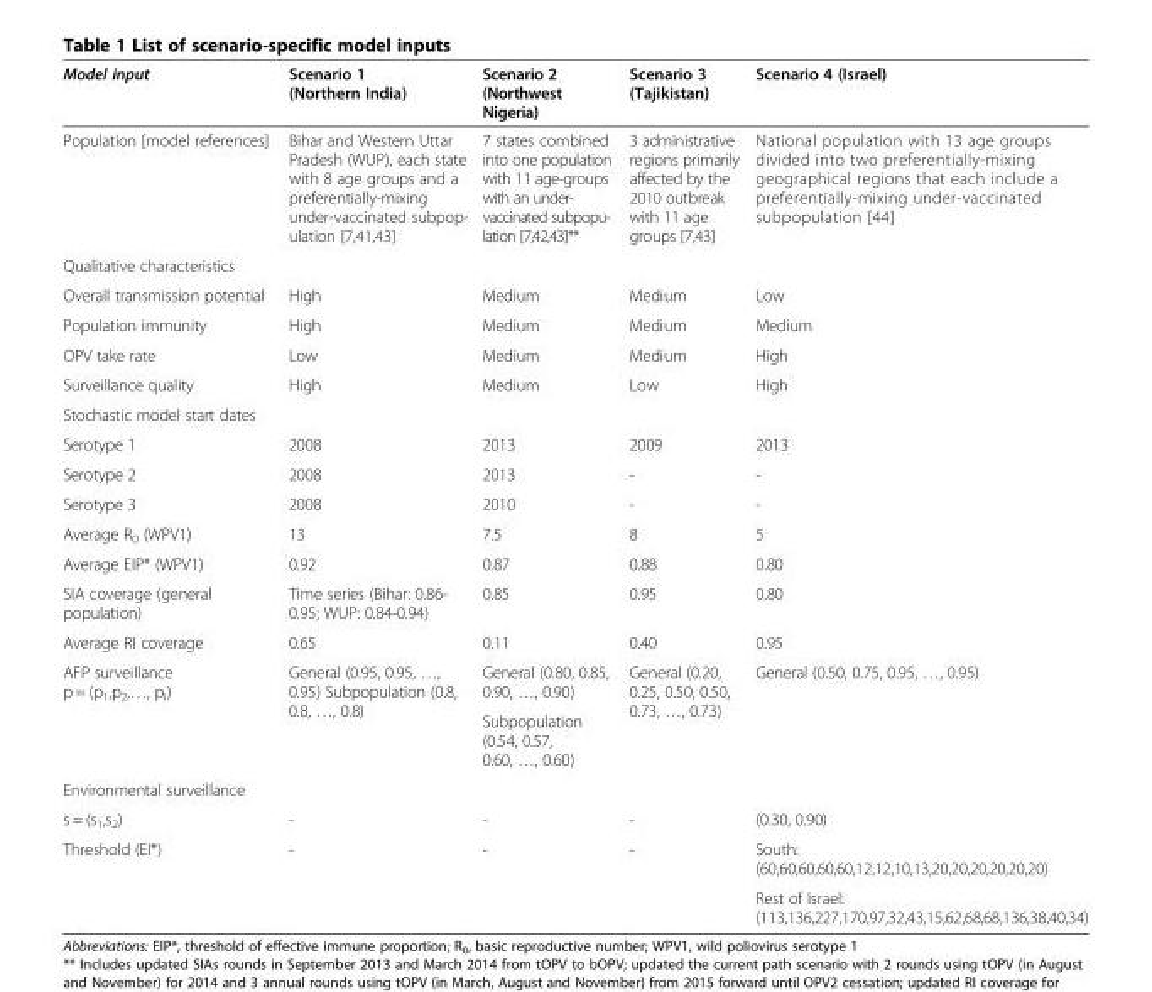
<table><thead><tr><td>Model input</td><td>Scenario 1 (Northern India)</td><td>Scenario 2 (Northwest Nigeria)</td><td>Scenario 3 (Tajikistan)</td><td>Scenario 4 (Israel)</td></tr></thead><tbody><tr><td>Population [model references]</td><td>Bihar and Western Uttar Pradesh (WUP), each state with 8 age groups and a preferentially-mixing under-vaccinated subpop- ulation [7,41,43]</td><td>7 states combined into one population with 11 age-groups with an under- vaccinated subpopu- lation [7,42,43]**</td><td>3 administrative regions primarily affected by the 2010 outbreak with 11 age groups [7,43]</td><td>National population with 13 age groups divided into two preferentially-mixing geographical regions that each include a preferentially-mixing under-vaccinated subpopulation [44]</td></tr><tr><td colspan="5">Qualitative characteristics</td></tr><tr><td>Overall transmission potential</td><td>High</td><td>Medium</td><td>Medium</td><td>Low</td></tr><tr><td>Population immunity</td><td>High</td><td>Medium</td><td>Medium</td><td>Medium</td></tr><tr><td>OPV take rate</td><td>Low</td><td>Medium</td><td>Medium</td><td>High</td></tr><tr><td>Surveillance quality</td><td>High</td><td>Medium</td><td>Low</td><td>High</td></tr><tr><td colspan="5">Stochastic model start dates</td></tr><tr><td>Serotype 1</td><td>2008</td><td>2013</td><td>2009</td><td>2013</td></tr><tr><td>Serotype 2</td><td>2008</td><td>2013</td><td>-</td><td>-</td></tr><tr><td>Serotype 3</td><td>2008</td><td>2010</td><td>-</td><td>-</td></tr><tr><td>Average R<sub>0</sub> (WPV1)</td><td>13</td><td>7.5</td><td>8</td><td>5</td></tr><tr><td>Average EIP* (WPV1)</td><td>0.92</td><td>0.87</td><td>0.88</td><td>0.80</td></tr><tr><td>SIA coverage (general population)</td><td>Time series (Bihar: 0.86- 0.95; WUP: 0.84-0.94)</td><td>0.85</td><td>0.95</td><td>0.80</td></tr><tr><td>Average RI coverage</td><td>0.65</td><td>0.11</td><td>0.40</td><td>0.95</td></tr><tr><td rowspan="2">AFP surveillance p = (p<sub>1</sub>,p<sub>2</sub>,…, p<sub>i</sub>)</td><td rowspan="2">General (0.95, 0.95, …, 0.95) Subpopulation (0.8, 0.8, …, 0.8)</td><td>General (0.80, 0.85, 0.90, …, 0.90)</td><td rowspan="2">General (0.20, 0.25, 0.50, 0.50, 0.73, …, 0.73)</td><td rowspan="2">General (0.50, 0.75, 0.95, …, 0.95)</td></tr><tr><td>Subpopulation (0.54, 0.57, 0.60, …, 0.60)</td></tr><tr><td colspan="5">Environmental surveillance</td></tr><tr><td>s = (s<sub>1</sub>,s<sub>2</sub>)</td><td>-</td><td>-</td><td>-</td><td>(0.30, 0.90)</td></tr><tr><td rowspan="2">Threshold (EI*)</td><td rowspan="2">-</td><td rowspan="2">-</td><td rowspan="2">-</td><td>South: (60,60,60,60,60,12,12,10,13,20,20,20,20,20,20)</td></tr><tr><td>Rest of Israel: (113,136,227,170,97,32,43,15,62,68,68,136,38,40,34)</td></tr></tbody></table>